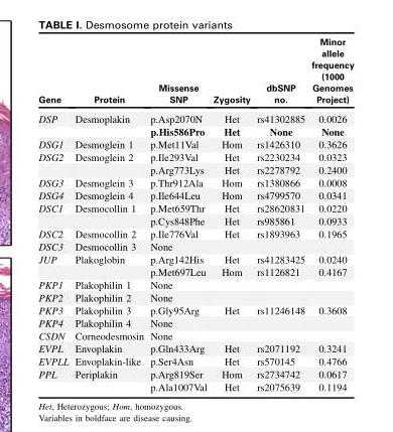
<table><thead><tr><td>Gene</td><td>Protein</td><td>Missense SNP</td><td>Zygosity</td><td>dbSNP no.</td><td>Minor allele frequency (1000 Genomes Project)</td></tr></thead><tbody><tr><td rowspan="2">DSP</td><td>Desmoplakin</td><td>p.Asp2070N</td><td>Het</td><td>rs41302885</td><td>0.0026</td></tr><tr><td></td><td>p.His586Pro</td><td>Het</td><td>None</td><td>None</td></tr><tr><td>DSG1</td><td>Desmoglein 1</td><td>p.Met11Val</td><td>Hom</td><td>rs1426310</td><td>0.3626</td></tr><tr><td rowspan="2">DSG2</td><td>Desmoglein 2</td><td>p.Ile293Val</td><td>Het</td><td>rs2230234</td><td>0.0323</td></tr><tr><td></td><td>p.Arg773Lys</td><td>Het</td><td>rs2278792</td><td>0.2400</td></tr><tr><td>DSG3</td><td>Desmoglein 3</td><td>p.Thr912Ala</td><td>Hom</td><td>rs1380866</td><td>0.0008</td></tr><tr><td>DSG4</td><td>Desmoglein 4</td><td>p.Ile644Leu</td><td>Hom</td><td>rs4799570</td><td>0.0341</td></tr><tr><td rowspan="2">DSC1</td><td>Desmocollin 1</td><td>p.Met659Thr</td><td>Het</td><td>rs28620831</td><td>0.0220</td></tr><tr><td></td><td>p.Cys848Phe</td><td>Het</td><td>rs985861</td><td>0.0933</td></tr><tr><td>DSC2</td><td>Desmocollin 2</td><td>p.Ile776Val</td><td>Het</td><td>rs1893963</td><td>0.1965</td></tr><tr><td>DSC3</td><td>Desmocollin 3</td><td>None</td><td></td><td></td><td></td></tr><tr><td rowspan="2">JUP</td><td>Plakoglobin</td><td>p.Arg142His</td><td>Het</td><td>rs41283425</td><td>0.0240</td></tr><tr><td></td><td>p.Met697Leu</td><td>Hom</td><td>rs1126821</td><td>0.4167</td></tr><tr><td>PKP1</td><td>Plakophilin 1</td><td>None</td><td></td><td></td><td></td></tr><tr><td>PKP2</td><td>Plakophilin 2</td><td>None</td><td></td><td></td><td></td></tr><tr><td>PKP3</td><td>Plakophilin 3</td><td>p.Gly95Arg</td><td>Het</td><td>rs11246148</td><td>0.3608</td></tr><tr><td>PKP4</td><td>Plakophilin 4</td><td>None</td><td></td><td></td><td></td></tr><tr><td>CSDN</td><td>Corneodesmosin</td><td>None</td><td></td><td></td><td></td></tr><tr><td>EVPL</td><td>Envoplakin</td><td>p.Gln433Arg</td><td>Het</td><td>rs2071192</td><td>0.3241</td></tr><tr><td>EVPLL</td><td>Envoplakin-like</td><td>p.Ser4Asn</td><td>Het</td><td>rs570145</td><td>0.4766</td></tr><tr><td rowspan="2">PPL</td><td>Periplakin</td><td>p.Arg819Ser</td><td>Hom</td><td>rs2734742</td><td>0.0617</td></tr><tr><td></td><td>p.Ala1007Val</td><td>Het</td><td>rs2075639</td><td>0.1194</td></tr></tbody></table>